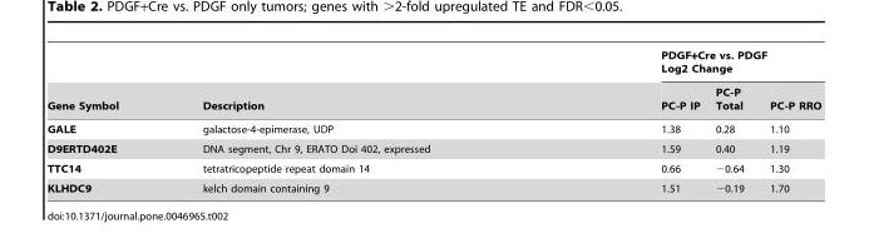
<table><thead><tr><td rowspan="2">Gene Symbol</td><td rowspan="2">Description</td><td colspan="3">PDGF+Cre vs. PDGF Log2 Change</td></tr><tr><td>PC-P IP</td><td>PC-P Total</td><td>PC-P RRO</td></tr></thead><tbody><tr><td>GALE</td><td>galactose-4-epimerase, UDP</td><td>1.38</td><td>0.28</td><td>1.10</td></tr><tr><td>D9ERTD402E</td><td>DNA segment, Chr 9, ERATO Doi 402, expressed</td><td>1.59</td><td>0.40</td><td>1.19</td></tr><tr><td>TTC14</td><td>tetratricopeptide repeat domain 14</td><td>0.66</td><td>−0.64</td><td>1.30</td></tr><tr><td>KLHDC9</td><td>kelch domain containing 9</td><td>1.51</td><td>−0.19</td><td>1.70</td></tr></tbody></table>